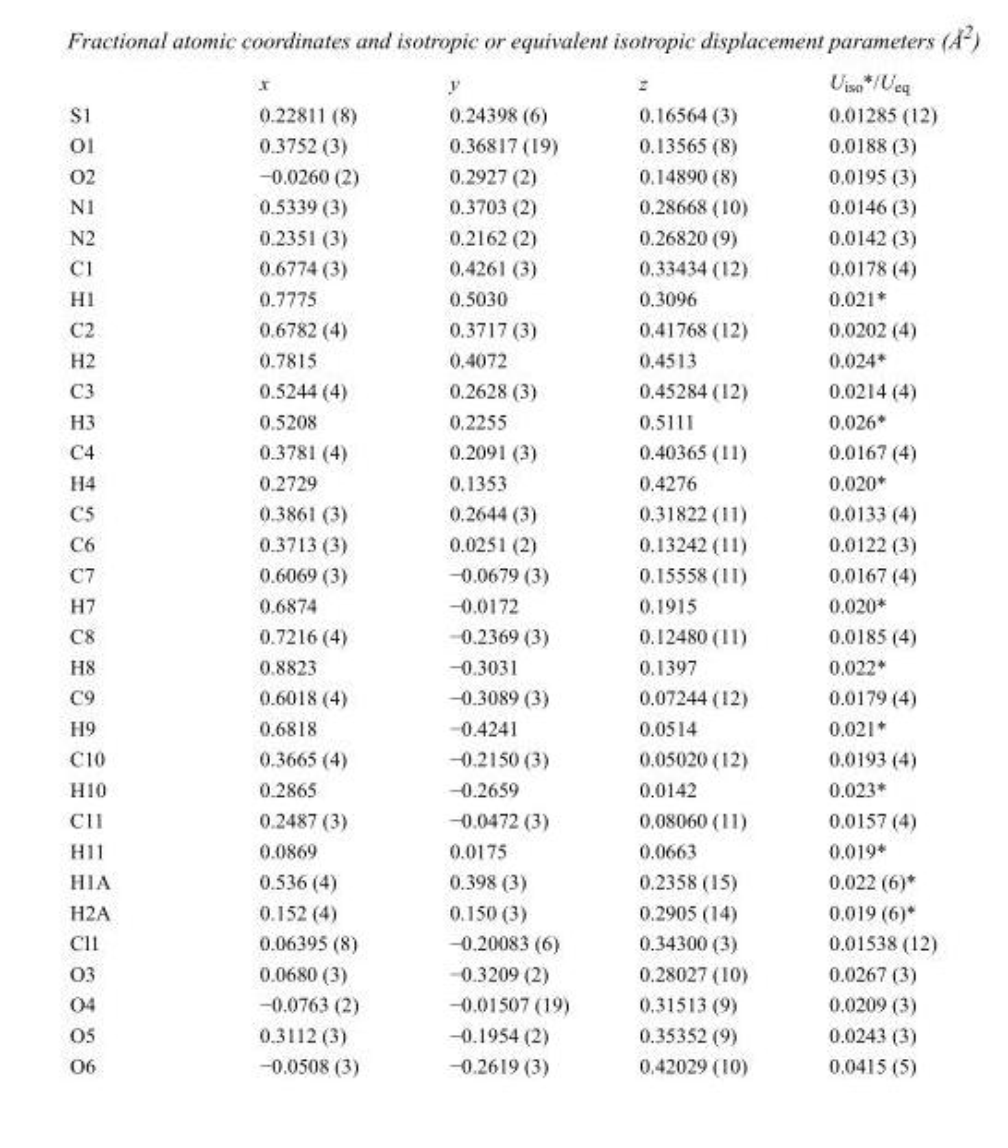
<table><thead><tr><td></td><td>x</td><td>y</td><td>z</td><td>U<sub>iso</sub>*/U<sub>eq</sub></td></tr></thead><tbody><tr><td>S1</td><td>0.22811 (8)</td><td>0.24398 (6)</td><td>0.16564 (3)</td><td>0.01285 (12)</td></tr><tr><td>O1</td><td>0.3752 (3)</td><td>0.36817 (19)</td><td>0.13565 (8)</td><td>0.0188 (3)</td></tr><tr><td>O2</td><td>−0.0260 (2)</td><td>0.2927 (2)</td><td>0.14890 (8)</td><td>0.0195 (3)</td></tr><tr><td>N1</td><td>0.5339 (3)</td><td>0.3703 (2)</td><td>0.28668 (10)</td><td>0.0146 (3)</td></tr><tr><td>N2</td><td>0.2351 (3)</td><td>0.2162 (2)</td><td>0.26820 (9)</td><td>0.0142 (3)</td></tr><tr><td>C1</td><td>0.6774 (3)</td><td>0.4261 (3)</td><td>0.33434 (12)</td><td>0.0178 (4)</td></tr><tr><td>H1</td><td>0.7775</td><td>0.5030</td><td>0.3096</td><td>0.021*</td></tr><tr><td>C2</td><td>0.6782 (4)</td><td>0.3717 (3)</td><td>0.41768 (12)</td><td>0.0202 (4)</td></tr><tr><td>H2</td><td>0.7815</td><td>0.4072</td><td>0.4513</td><td>0.024*</td></tr><tr><td>C3</td><td>0.5244 (4)</td><td>0.2628 (3)</td><td>0.45284 (12)</td><td>0.0214 (4)</td></tr><tr><td>H3</td><td>0.5208</td><td>0.2255</td><td>0.5111</td><td>0.026*</td></tr><tr><td>C4</td><td>0.3781 (4)</td><td>0.2091 (3)</td><td>0.40365 (11)</td><td>0.0167 (4)</td></tr><tr><td>H4</td><td>0.2729</td><td>0.1353</td><td>0.4276</td><td>0.020*</td></tr><tr><td>C5</td><td>0.3861 (3)</td><td>0.2644 (3)</td><td>0.31822 (11)</td><td>0.0133 (4)</td></tr><tr><td>C6</td><td>0.3713 (3)</td><td>0.0251 (2)</td><td>0.13242 (11)</td><td>0.0122 (3)</td></tr><tr><td>C7</td><td>0.6069 (3)</td><td>−0.0679 (3)</td><td>0.15558 (11)</td><td>0.0167 (4)</td></tr><tr><td>H7</td><td>0.6874</td><td>−0.0172</td><td>0.1915</td><td>0.020*</td></tr><tr><td>C8</td><td>0.7216 (4)</td><td>−0.2369 (3)</td><td>0.12480 (11)</td><td>0.0185 (4)</td></tr><tr><td>H8</td><td>0.8823</td><td>−0.3031</td><td>0.1397</td><td>0.022*</td></tr><tr><td>C9</td><td>0.6018 (4)</td><td>−0.3089 (3)</td><td>0.07244 (12)</td><td>0.0179 (4)</td></tr><tr><td>H9</td><td>0.6818</td><td>−0.4241</td><td>0.0514</td><td>0.021*</td></tr><tr><td>C10</td><td>0.3665 (4)</td><td>−0.2150 (3)</td><td>0.05020 (12)</td><td>0.0193 (4)</td></tr><tr><td>H10</td><td>0.2865</td><td>−0.2659</td><td>0.0142</td><td>0.023*</td></tr><tr><td>C11</td><td>0.2487 (3)</td><td>−0.0472 (3)</td><td>0.08060 (11)</td><td>0.0157 (4)</td></tr><tr><td>H11</td><td>0.0869</td><td>0.0175</td><td>0.0663</td><td>0.019*</td></tr><tr><td>H1A</td><td>0.536 (4)</td><td>0.398 (3)</td><td>0.2358 (15)</td><td>0.022 (6)*</td></tr><tr><td>H2A</td><td>0.152 (4)</td><td>0.150 (3)</td><td>0.2905 (14)</td><td>0.019 (6)*</td></tr><tr><td>Cl1</td><td>0.06395 (8)</td><td>−0.20083 (6)</td><td>0.34300 (3)</td><td>0.01538 (12)</td></tr><tr><td>O3</td><td>0.0680 (3)</td><td>−0.3209 (2)</td><td>0.28027 (10)</td><td>0.0267 (3)</td></tr><tr><td>O4</td><td>−0.0763 (2)</td><td>−0.01507 (19)</td><td>0.31513 (9)</td><td>0.0209 (3)</td></tr><tr><td>O5</td><td>0.3112 (3)</td><td>−0.1954 (2)</td><td>0.35352 (9)</td><td>0.0243 (3)</td></tr><tr><td>O6</td><td>−0.0508 (3)</td><td>−0.2619 (3)</td><td>0.42029 (10)</td><td>0.0415 (5)</td></tr></tbody></table>